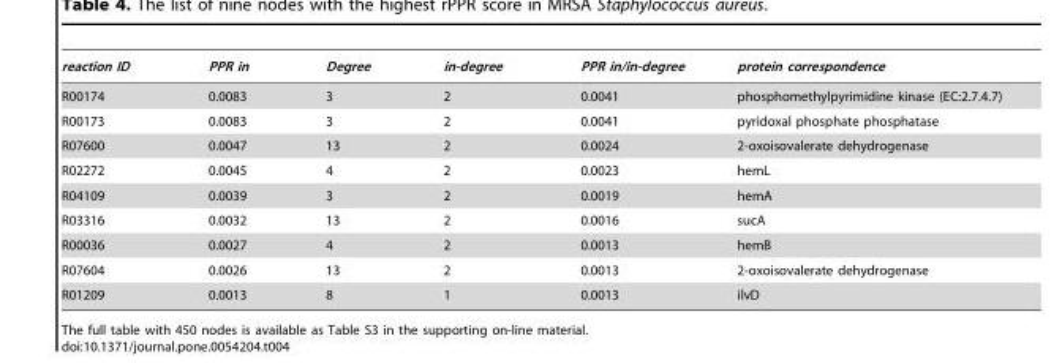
<table><thead><tr><td>reaction ID</td><td>PPR in</td><td>Degree</td><td>in-degree</td><td>PPR in/in-degree</td><td>protein correspondence</td></tr></thead><tbody><tr><td>R00174</td><td>0.0083</td><td>3</td><td>2</td><td>0.0041</td><td>phosphomethylpyrimidine kinase (EC:2.7.4.7)</td></tr><tr><td>R00173</td><td>0.0083</td><td>3</td><td>2</td><td>0.0041</td><td>pyridoxal phosphate phosphatase</td></tr><tr><td>R07600</td><td>0.0047</td><td>13</td><td>2</td><td>0.0024</td><td>2-oxoisovalerate dehydrogenase</td></tr><tr><td>R02272</td><td>0.0045</td><td>4</td><td>2</td><td>0.0023</td><td>hemL</td></tr><tr><td>R04109</td><td>0.0039</td><td>3</td><td>2</td><td>0.0019</td><td>hemA</td></tr><tr><td>R03316</td><td>0.0032</td><td>13</td><td>2</td><td>0.0016</td><td>sucA</td></tr><tr><td>R00036</td><td>0.0027</td><td>4</td><td>2</td><td>0.0013</td><td>hemB</td></tr><tr><td>R07604</td><td>0.0026</td><td>13</td><td>2</td><td>0.0013</td><td>2-oxoisovalerate dehydrogenase</td></tr><tr><td>R01209</td><td>0.0013</td><td>8</td><td>1</td><td>0.0013</td><td>ilvD</td></tr></tbody></table>